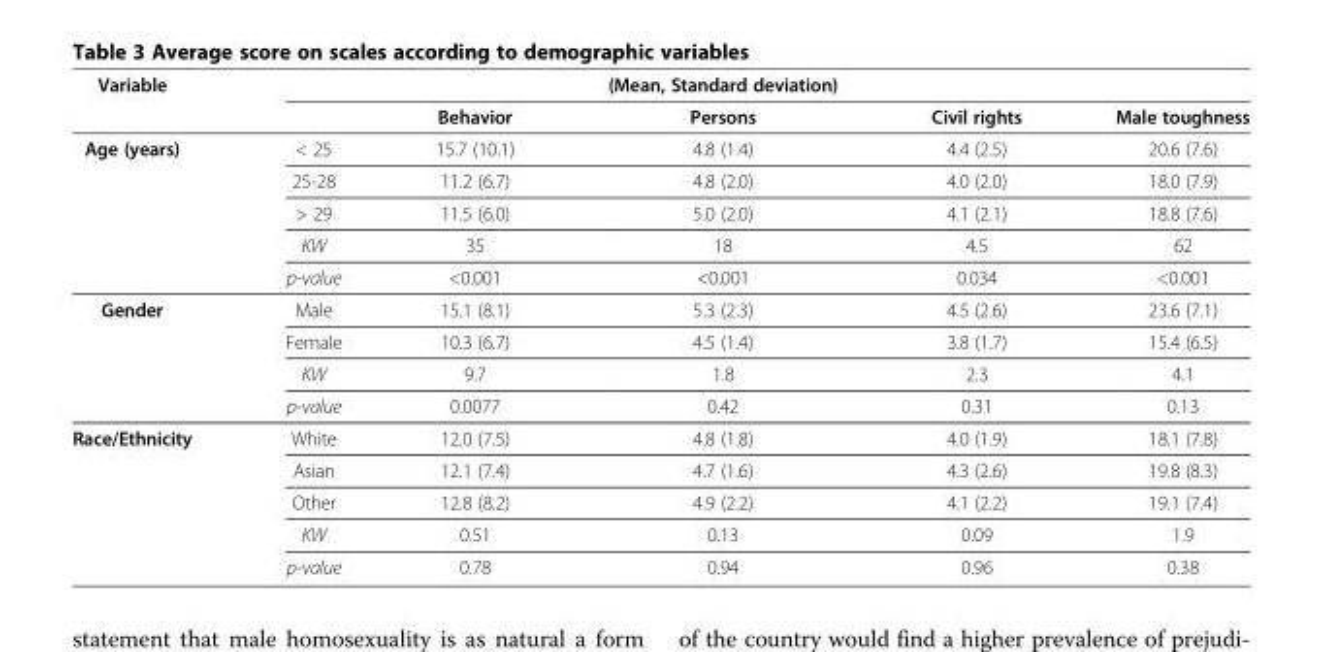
<table><thead><tr><td>Variable</td><td></td><td></td><td>(Mean, Standard deviation)</td><td></td><td></td></tr></thead><tbody><tr><td></td><td></td><td>Behavior</td><td>Persons</td><td>Civil rights</td><td>Male toughness</td></tr><tr><td rowspan="5">Age (years)</td><td>&lt; 25</td><td>15.7 (10.1)</td><td>4.8 (1.4)</td><td>4.4 (2.5)</td><td>20.6 (7.6)</td></tr><tr><td>25-28</td><td>11.2 (6.7)</td><td>4.8 (2.0)</td><td>4.0 (2.0)</td><td>18.0 (7.9)</td></tr><tr><td>&gt; 29</td><td>11.5 (6.0)</td><td>5.0 (2.0)</td><td>4.1 (2.1)</td><td>18.8 (7.6)</td></tr><tr><td>KW</td><td>35</td><td>18</td><td>4.5</td><td>62</td></tr><tr><td>p-value</td><td>&lt;0.001</td><td>&lt;0.001</td><td>0.034</td><td>&lt;0.001</td></tr><tr><td rowspan="4">Gender</td><td>Male</td><td>15.1 (8.1)</td><td>5.3 (2.3)</td><td>4.5 (2.6)</td><td>23.6 (7.1)</td></tr><tr><td>Female</td><td>10.3 (6.7)</td><td>4.5 (1.4)</td><td>3.8 (1.7)</td><td>15.4 (6.5)</td></tr><tr><td>KW</td><td>9.7</td><td>1.8</td><td>2.3</td><td>4.1</td></tr><tr><td>p-value</td><td>0.0077</td><td>0.42</td><td>0.31</td><td>0.13</td></tr><tr><td rowspan="5">Race/Ethnicity</td><td>White</td><td>12.0 (7.5)</td><td>4.8 (1.8)</td><td>4.0 (1.9)</td><td>18.1 (7.8)</td></tr><tr><td>Asian</td><td>12.1 (7.4)</td><td>4.7 (1.6)</td><td>4.3 (2.6)</td><td>19.8 (8.3)</td></tr><tr><td>Other</td><td>12.8 (8.2)</td><td>4.9 (2.2)</td><td>4.1 (2.2)</td><td>19.1 (7.4)</td></tr><tr><td>KW</td><td>0.51</td><td>0.13</td><td>0.09</td><td>1.9</td></tr><tr><td>p-value</td><td>0.78</td><td>0.94</td><td>0.96</td><td>0.38</td></tr></tbody></table>